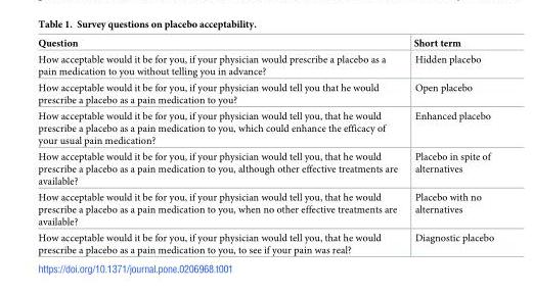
<table><thead><tr><td>Question</td><td>Short term</td></tr></thead><tbody><tr><td>How acceptable would it be for you, if your physician would prescribe a placebo as a pain medication to you without telling you in advance?</td><td>Hidden placebo</td></tr><tr><td>How acceptable would it be for you, if your physician would tell you that he would prescribe a placebo as a pain medication to you?</td><td>Open placebo</td></tr><tr><td>How acceptable would it be for you, if your physician would tell you, that he would prescribe a placebo as a pain medication to you, which could enhance the efficacy of your usual pain medication?</td><td>Enhanced placebo</td></tr><tr><td>How acceptable would it be for you, if your physician would tell you, that he would prescribe a placebo as a pain medication to you, although other effective treatments are available?</td><td>Placebo in spite of alternatives</td></tr><tr><td>How acceptable would it be for you, if your physician would tell you, that he would prescribe a placebo as a pain medication to you, when no other effective treatments are available?</td><td>Placebo with no alternatives</td></tr><tr><td>How acceptable would it be for you, if your physician would tell you, that he would prescribe a placebo as a pain medication to you, to see if your pain was real?</td><td>Diagnostic placebo</td></tr></tbody></table>